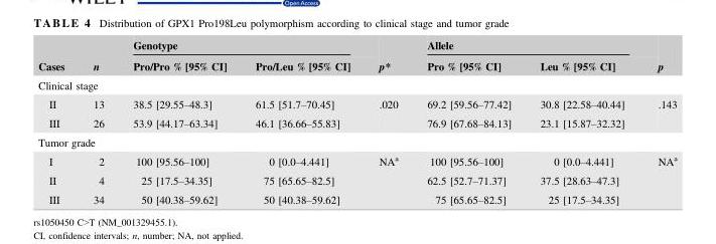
<table><thead><tr><td rowspan="2">Cases</td><td rowspan="2">n</td><td colspan="2">Genotype</td><td rowspan="2">p*</td><td colspan="2">Allele</td><td rowspan="2">p</td></tr><tr><td>Pro/Pro % [95% CI]</td><td>Pro/Leu % [95% CI]</td><td>Pro % [95% CI]</td><td>Leu % [95% CI]</td></tr></thead><tbody><tr><td colspan="8">Clinical stage</td></tr><tr><td>II</td><td>13</td><td>38.5 [29.55–48.3]</td><td>61.5 [51.7–70.45]</td><td rowspan="2">.020</td><td>69.2 [59.56–77.42]</td><td>30.8 [22.58–40.44]</td><td rowspan="2">.143</td></tr><tr><td>III</td><td>26</td><td>53.9 [44.17–63.34]</td><td>46.1 [36.66–55.83]</td><td>76.9 [67.68–84.13]</td><td>23.1 [15.87–32.32]</td></tr><tr><td colspan="8">Tumor grade</td></tr><tr><td>I</td><td>2</td><td>100 [95.56–100]</td><td>0 [0.0–4.441]</td><td rowspan="3">NA<sup>a</sup></td><td>100 [95.56–100]</td><td>0 [0.0–4.441]</td><td rowspan="3">NA<sup>a</sup></td></tr><tr><td>II</td><td>4</td><td>25 [17.5–34.35]</td><td>75 [65.65–82.5]</td><td>62.5 [52.7–71.37]</td><td>37.5 [28.63–47.3]</td></tr><tr><td>III</td><td>34</td><td>50 [40.38–59.62]</td><td>50 [40.38–59.62]</td><td>75 [65.65–82.5]</td><td>25 [17.5–34.35]</td></tr></tbody></table>